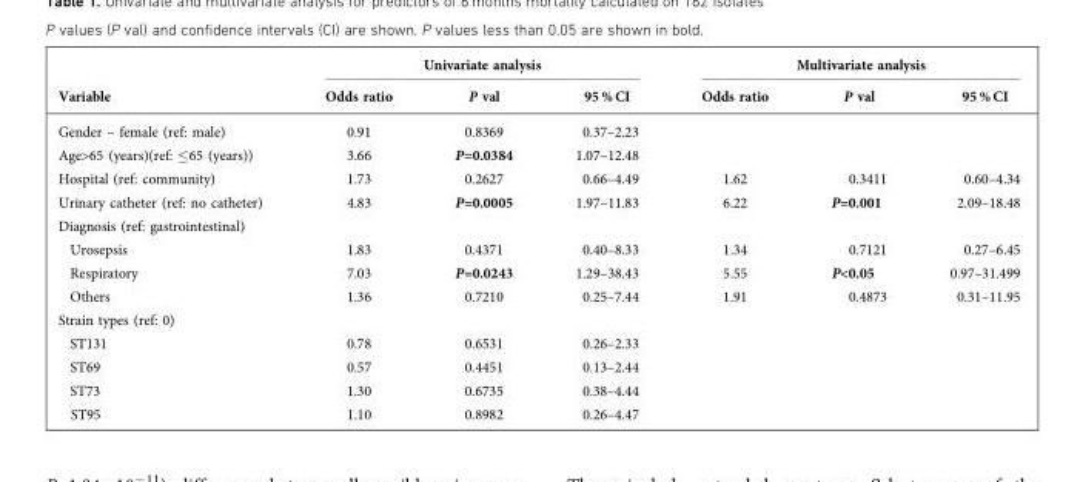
<table><thead><tr><td rowspan="2">Variable</td><td colspan="3">Univariate analysis</td><td colspan="3">Multivariate analysis</td></tr><tr><td>Odds ratio</td><td>P val</td><td>95 % CI</td><td>Odds ratio</td><td>P val</td><td>95 % CI</td></tr></thead><tbody><tr><td>Gender – female (ref: male)</td><td>0.91</td><td>0.8369</td><td>0.37–2.23</td><td></td><td></td><td></td></tr><tr><td>Age&gt;65 (years)(ref: ≤65 (years))</td><td>3.66</td><td>P=0.0384</td><td>1.07–12.48</td><td></td><td></td><td></td></tr><tr><td>Hospital (ref: community)</td><td>1.73</td><td>0.2627</td><td>0.66–4.49</td><td>1.62</td><td>0.3411</td><td>0.60–4.34</td></tr><tr><td>Urinary catheter (ref: no catheter)</td><td>4.83</td><td>P=0.0005</td><td>1.97–11.83</td><td>6.22</td><td>P=0.001</td><td>2.09–18.48</td></tr><tr><td colspan="7">Diagnosis (ref: gastrointestinal)</td></tr><tr><td>Urosepsis</td><td>1.83</td><td>0.4371</td><td>0.40–8.33</td><td>1.34</td><td>0.7121</td><td>0.27–6.45</td></tr><tr><td>Respiratory</td><td>7.03</td><td>P=0.0243</td><td>1.29–38.43</td><td>5.55</td><td>P&lt;0.05</td><td>0.97–31.499</td></tr><tr><td>Others</td><td>1.36</td><td>0.7210</td><td>0.25–7.44</td><td>1.91</td><td>0.4873</td><td>0.31–11.95</td></tr><tr><td colspan="7">Strain types (ref: 0)</td></tr><tr><td>ST131</td><td>0.78</td><td>0.6531</td><td>0.26–2.33</td><td></td><td></td><td></td></tr><tr><td>ST69</td><td>0.57</td><td>0.4451</td><td>0.13–2.44</td><td></td><td></td><td></td></tr><tr><td>ST73</td><td>1.30</td><td>0.6735</td><td>0.38–4.44</td><td></td><td></td><td></td></tr><tr><td>ST95</td><td>1.10</td><td>0.8982</td><td>0.26–4.47</td><td></td><td></td><td></td></tr></tbody></table>